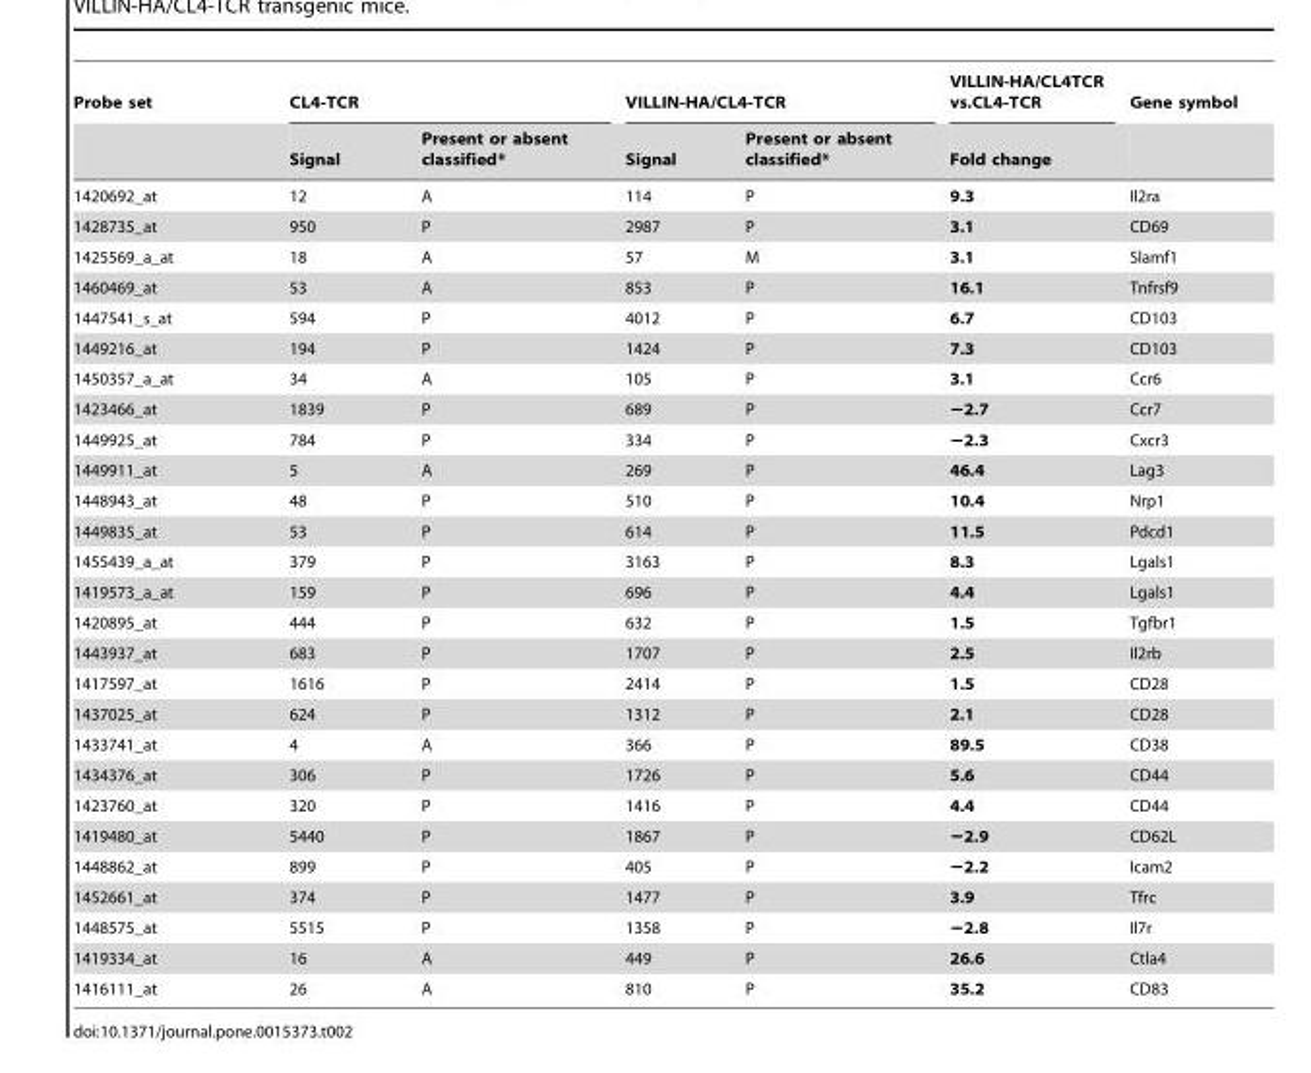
<table><thead><tr><td rowspan="2">Probe set</td><td colspan="2">CL4-TCR</td><td colspan="2">VILLIN-HA/CL4-TCR</td><td rowspan="2">VILLIN-HA/CL4TCR vs.CL4-TCR Fold change</td><td rowspan="2">Gene symbol</td></tr><tr><td>Signal</td><td>Present or absent classified*</td><td>Signal</td><td>Present or absent classified*</td></tr></thead><tbody><tr><td>1420692_at</td><td>12</td><td>A</td><td>114</td><td>P</td><td>9.3</td><td>Il2ra</td></tr><tr><td>1428735_at</td><td>950</td><td>P</td><td>2987</td><td>P</td><td>3.1</td><td>CD69</td></tr><tr><td>1425569_a_at</td><td>18</td><td>A</td><td>57</td><td>M</td><td>3.1</td><td>Slamf1</td></tr><tr><td>1460469_at</td><td>53</td><td>A</td><td>853</td><td>P</td><td>16.1</td><td>Tnfrsf9</td></tr><tr><td>1447541_s_at</td><td>594</td><td>P</td><td>4012</td><td>P</td><td>6.7</td><td>CD103</td></tr><tr><td>1449216_at</td><td>194</td><td>P</td><td>1424</td><td>P</td><td>7.3</td><td>CD103</td></tr><tr><td>1450357_a_at</td><td>34</td><td>A</td><td>105</td><td>P</td><td>3.1</td><td>Ccr6</td></tr><tr><td>1423466_at</td><td>1839</td><td>P</td><td>689</td><td>P</td><td>−2.7</td><td>Ccr7</td></tr><tr><td>1449925_at</td><td>784</td><td>P</td><td>334</td><td>P</td><td>−2.3</td><td>Cxcr3</td></tr><tr><td>1449911_at</td><td>5</td><td>A</td><td>269</td><td>P</td><td>46.4</td><td>Lag3</td></tr><tr><td>1448943_at</td><td>48</td><td>P</td><td>510</td><td>P</td><td>10.4</td><td>Nrp1</td></tr><tr><td>1449835_at</td><td>53</td><td>P</td><td>614</td><td>P</td><td>11.5</td><td>Pdcd1</td></tr><tr><td>1455439_a_at</td><td>379</td><td>P</td><td>3163</td><td>P</td><td>8.3</td><td>Lgals1</td></tr><tr><td>1419573_a_at</td><td>159</td><td>P</td><td>696</td><td>P</td><td>4.4</td><td>Lgals1</td></tr><tr><td>1420895_at</td><td>444</td><td>P</td><td>632</td><td>P</td><td>1.5</td><td>Tgfbr1</td></tr><tr><td>1443937_at</td><td>683</td><td>P</td><td>1707</td><td>P</td><td>2.5</td><td>Il2rb</td></tr><tr><td>1417597_at</td><td>1616</td><td>P</td><td>2414</td><td>P</td><td>1.5</td><td>CD28</td></tr><tr><td>1437025_at</td><td>624</td><td>P</td><td>1312</td><td>P</td><td>2.1</td><td>CD28</td></tr><tr><td>1433741_at</td><td>4</td><td>A</td><td>366</td><td>P</td><td>89.5</td><td>CD38</td></tr><tr><td>1434376_at</td><td>306</td><td>P</td><td>1726</td><td>P</td><td>5.6</td><td>CD44</td></tr><tr><td>1423760_at</td><td>320</td><td>P</td><td>1416</td><td>P</td><td>4.4</td><td>CD44</td></tr><tr><td>1419480_at</td><td>5440</td><td>P</td><td>1867</td><td>P</td><td>−2.9</td><td>CD62L</td></tr><tr><td>1448862_at</td><td>899</td><td>P</td><td>405</td><td>P</td><td>−2.2</td><td>Icam2</td></tr><tr><td>1452661_at</td><td>374</td><td>P</td><td>1477</td><td>P</td><td>3.9</td><td>Tfrc</td></tr><tr><td>1448575_at</td><td>5515</td><td>P</td><td>1358</td><td>P</td><td>−2.8</td><td>Il7r</td></tr><tr><td>1419334_at</td><td>16</td><td>A</td><td>449</td><td>P</td><td>26.6</td><td>Ctla4</td></tr><tr><td>1416111_at</td><td>26</td><td>A</td><td>810</td><td>P</td><td>35.2</td><td>CD83</td></tr></tbody></table>